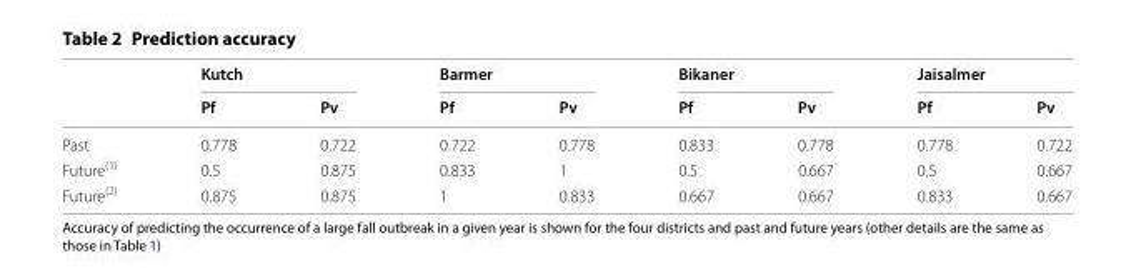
<table><thead><tr><td rowspan="2"></td><td colspan="2">Kutch</td><td colspan="2">Barmer</td><td colspan="2">Bikaner</td><td colspan="2">Jaisalmer</td></tr><tr><td>Pf</td><td>Pv</td><td>Pf</td><td>Pv</td><td>Pf</td><td>Pv</td><td>Pf</td><td>Pv</td></tr></thead><tbody><tr><td>Past</td><td>0.778</td><td>0.722</td><td>0.722</td><td>0.778</td><td>0.833</td><td>0.778</td><td>0.778</td><td>0.722</td></tr><tr><td>Future<sup>(1)</sup></td><td>0.5</td><td>0.875</td><td>0.833</td><td>1</td><td>0.5</td><td>0.667</td><td>0.5</td><td>0.667</td></tr><tr><td>Future<sup>(2)</sup></td><td>0.875</td><td>0.875</td><td>1</td><td>0.833</td><td>0.667</td><td>0.667</td><td>0.833</td><td>0.667</td></tr></tbody></table>